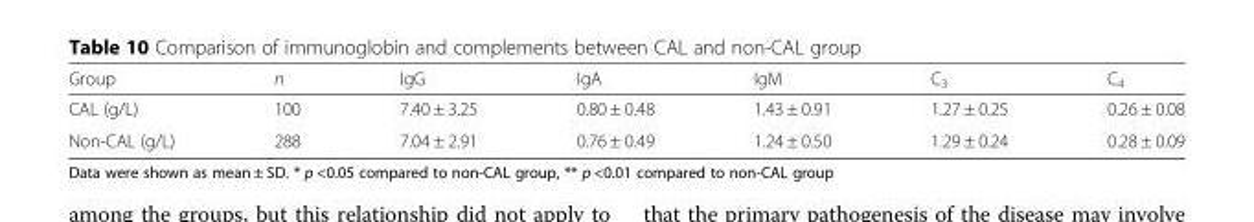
<table><thead><tr><td>Group</td><td>n</td><td>IgG</td><td>IgA</td><td>IgM</td><td>C<sub>3</sub></td><td>C<sub>4</sub></td></tr></thead><tbody><tr><td>CAL (g/L)</td><td>100</td><td>7.40 ± 3.25</td><td>0.80 ± 0.48</td><td>1.43 ± 0.91</td><td>1.27 ± 0.25</td><td>0.26 ± 0.08</td></tr><tr><td>Non-CAL (g/L)</td><td>288</td><td>7.04 ± 2.91</td><td>0.76 ± 0.49</td><td>1.24 ± 0.50</td><td>1.29 ± 0.24</td><td>0.28 ± 0.09</td></tr></tbody></table>